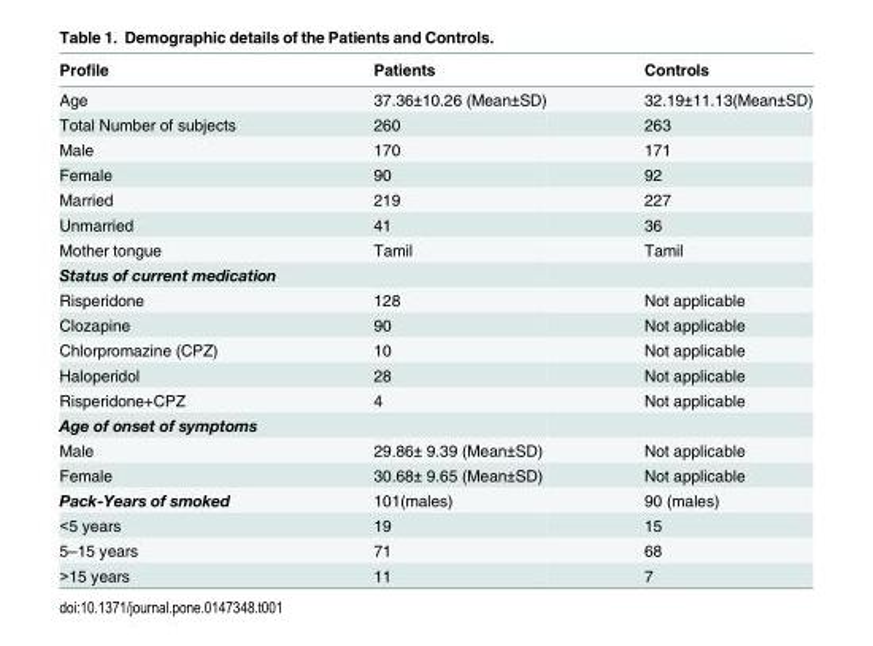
<table><thead><tr><td>Profile</td><td>Patients</td><td>Controls</td></tr></thead><tbody><tr><td>Age</td><td>37.36±10.26 (Mean±SD)</td><td>32.19±11.13(Mean±SD)</td></tr><tr><td>Total Number of subjects</td><td>260</td><td>263</td></tr><tr><td>Male</td><td>170</td><td>171</td></tr><tr><td>Female</td><td>90</td><td>92</td></tr><tr><td>Married</td><td>219</td><td>227</td></tr><tr><td>Unmarried</td><td>41</td><td>36</td></tr><tr><td>Mother tongue</td><td>Tamil</td><td>Tamil</td></tr><tr><td colspan="3">Status of current medication</td></tr><tr><td>Risperidone</td><td>128</td><td>Not applicable</td></tr><tr><td>Clozapine</td><td>90</td><td>Not applicable</td></tr><tr><td>Chlorpromazine (CPZ)</td><td>10</td><td>Not applicable</td></tr><tr><td>Haloperidol</td><td>28</td><td>Not applicable</td></tr><tr><td>Risperidone+CPZ</td><td>4</td><td>Not applicable</td></tr><tr><td colspan="3">Age of onset of symptoms</td></tr><tr><td>Male</td><td>29.86± 9.39 (Mean±SD)</td><td>Not applicable</td></tr><tr><td>Female</td><td>30.68± 9.65 (Mean±SD)</td><td>Not applicable</td></tr><tr><td>Pack-Years of smoked</td><td>101(males)</td><td>90 (males)</td></tr><tr><td>&lt;5 years</td><td>19</td><td>15</td></tr><tr><td>5–15 years</td><td>71</td><td>68</td></tr><tr><td>&gt;15 years</td><td>11</td><td>7</td></tr></tbody></table>